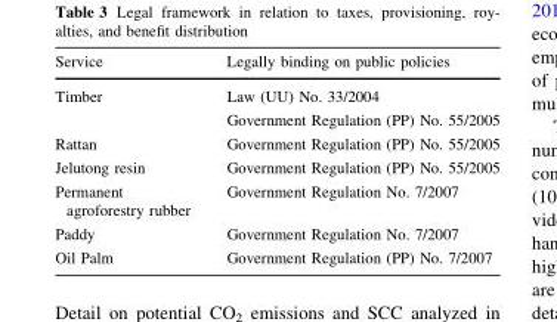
<table><thead><tr><td>Service</td><td>Legally binding on public policies</td></tr></thead><tbody><tr><td>Timber</td><td>Law (UU) No. 33/2004 Government Regulation (PP) No. 55/2005</td></tr><tr><td>Rattan</td><td>Government Regulation (PP) No. 55/2005</td></tr><tr><td>Jelutong resin</td><td>Government Regulation (PP) No. 55/2005</td></tr><tr><td>Permanent agroforestry rubber</td><td>Government Regulation No. 7/2007</td></tr><tr><td>Paddy</td><td>Government Regulation No. 7/2007</td></tr><tr><td>Oil Palm</td><td>Government Regulation (PP) No. 7/2007</td></tr></tbody></table>